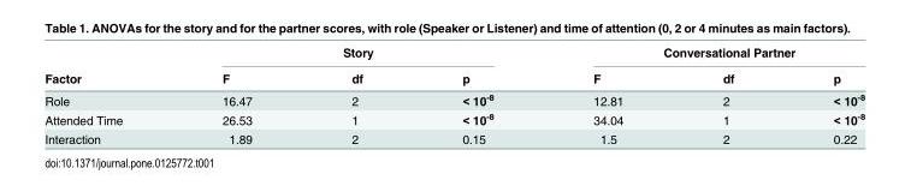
<table><thead><tr><td rowspan="2">Factor</td><td colspan="3">Story</td><td colspan="3">Conversational Partner</td></tr><tr><td>F</td><td>df</td><td>p</td><td>F</td><td>df</td><td>p</td></tr></thead><tbody><tr><td>Role</td><td>16.47</td><td>2</td><td>&lt; 10<sup>-8</sup></td><td>12.81</td><td>2</td><td>&lt; 10<sup>-8</sup></td></tr><tr><td>Attended Time</td><td>26.53</td><td>1</td><td>&lt; 10<sup>-8</sup></td><td>34.04</td><td>1</td><td>&lt; 10<sup>-8</sup></td></tr><tr><td>Interaction</td><td>1.89</td><td>2</td><td>0.15</td><td>1.5</td><td>2</td><td>0.22</td></tr></tbody></table>